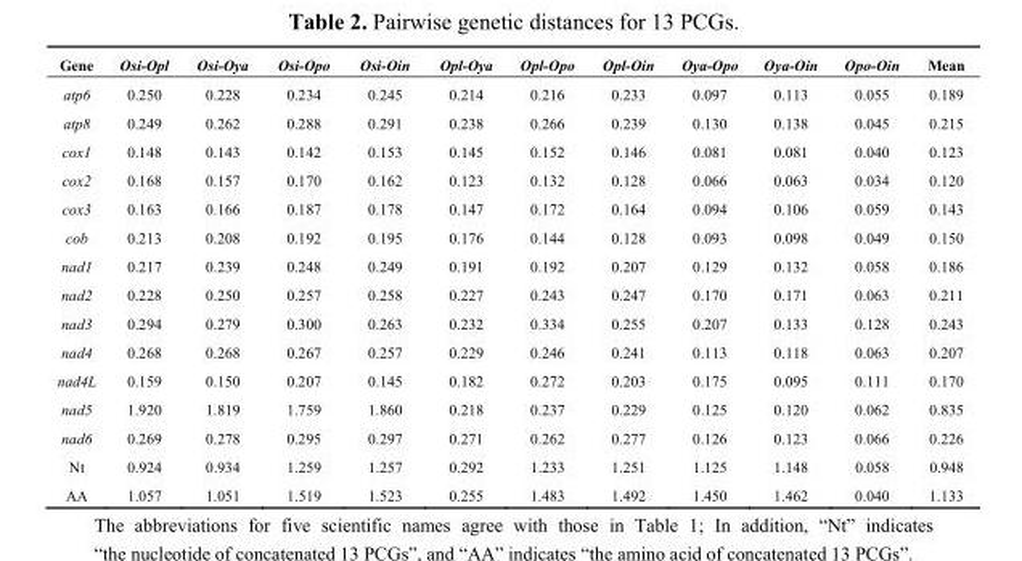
<table><thead><tr><td>Gene</td><td>Osi-Opl</td><td>Osi-Oya</td><td>Osi-Opo</td><td>Osi-Oin</td><td>Opl-Oya</td><td>Opl-Opo</td><td>Opl-Oin</td><td>Oya-Opo</td><td>Oya-Oin</td><td>Opo-Oin</td><td>Mean</td></tr></thead><tbody><tr><td>atp6</td><td>0.250</td><td>0.228</td><td>0.234</td><td>0.245</td><td>0.214</td><td>0.216</td><td>0.233</td><td>0.097</td><td>0.113</td><td>0.055</td><td>0.189</td></tr><tr><td>atp8</td><td>0.249</td><td>0.262</td><td>0.288</td><td>0.291</td><td>0.238</td><td>0.266</td><td>0.239</td><td>0.130</td><td>0.138</td><td>0.045</td><td>0.215</td></tr><tr><td>cox1</td><td>0.148</td><td>0.143</td><td>0.142</td><td>0.153</td><td>0.145</td><td>0.152</td><td>0.146</td><td>0.081</td><td>0.081</td><td>0.040</td><td>0.123</td></tr><tr><td>cox2</td><td>0.168</td><td>0.157</td><td>0.170</td><td>0.162</td><td>0.123</td><td>0.132</td><td>0.128</td><td>0.066</td><td>0.063</td><td>0.034</td><td>0.120</td></tr><tr><td>cox3</td><td>0.163</td><td>0.166</td><td>0.187</td><td>0.178</td><td>0.147</td><td>0.172</td><td>0.164</td><td>0.094</td><td>0.106</td><td>0.059</td><td>0.143</td></tr><tr><td>cob</td><td>0.213</td><td>0.208</td><td>0.192</td><td>0.195</td><td>0.176</td><td>0.144</td><td>0.128</td><td>0.093</td><td>0.098</td><td>0.049</td><td>0.150</td></tr><tr><td>nad1</td><td>0.217</td><td>0.239</td><td>0.248</td><td>0.249</td><td>0.191</td><td>0.192</td><td>0.207</td><td>0.129</td><td>0.132</td><td>0.058</td><td>0.186</td></tr><tr><td>nad2</td><td>0.228</td><td>0.250</td><td>0.257</td><td>0.258</td><td>0.227</td><td>0.243</td><td>0.247</td><td>0.170</td><td>0.171</td><td>0.063</td><td>0.211</td></tr><tr><td>nad3</td><td>0.294</td><td>0.279</td><td>0.300</td><td>0.263</td><td>0.232</td><td>0.334</td><td>0.255</td><td>0.207</td><td>0.133</td><td>0.128</td><td>0.243</td></tr><tr><td>nad4</td><td>0.268</td><td>0.268</td><td>0.267</td><td>0.257</td><td>0.229</td><td>0.246</td><td>0.241</td><td>0.113</td><td>0.118</td><td>0.063</td><td>0.207</td></tr><tr><td>nad4L</td><td>0.159</td><td>0.150</td><td>0.207</td><td>0.145</td><td>0.182</td><td>0.272</td><td>0.203</td><td>0.175</td><td>0.095</td><td>0.111</td><td>0.170</td></tr><tr><td>nad5</td><td>1.920</td><td>1.819</td><td>1.759</td><td>1.860</td><td>0.218</td><td>0.237</td><td>0.229</td><td>0.125</td><td>0.120</td><td>0.062</td><td>0.835</td></tr><tr><td>nad6</td><td>0.269</td><td>0.278</td><td>0.295</td><td>0.297</td><td>0.271</td><td>0.262</td><td>0.277</td><td>0.126</td><td>0.123</td><td>0.066</td><td>0.226</td></tr><tr><td>Nt</td><td>0.924</td><td>0.934</td><td>1.259</td><td>1.257</td><td>0.292</td><td>1.233</td><td>1.251</td><td>1.125</td><td>1.148</td><td>0.058</td><td>0.948</td></tr><tr><td>AA</td><td>1.057</td><td>1.051</td><td>1.519</td><td>1.523</td><td>0.255</td><td>1.483</td><td>1.492</td><td>1.450</td><td>1.462</td><td>0.040</td><td>1.133</td></tr></tbody></table>